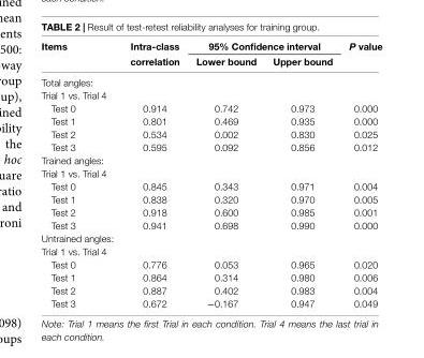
<table><thead><tr><td rowspan="2">Items</td><td rowspan="2">Intra-class correlation</td><td colspan="2">95% Confidence interval</td><td rowspan="2">P value</td></tr><tr><td>Lower bound</td><td>Upper bound</td></tr></thead><tbody><tr><td colspan="5">Total angles:</td></tr><tr><td colspan="5">Trial 1 vs. Trial 4</td></tr><tr><td>Test 0</td><td>0.914</td><td>0.742</td><td>0.973</td><td>0.000</td></tr><tr><td>Test 1</td><td>0.801</td><td>0.469</td><td>0.935</td><td>0.000</td></tr><tr><td>Test 2</td><td>0.534</td><td>0.002</td><td>0.830</td><td>0.025</td></tr><tr><td>Test 3</td><td>0.595</td><td>0.092</td><td>0.856</td><td>0.012</td></tr><tr><td colspan="5">Trained angles:</td></tr><tr><td colspan="5">Trial 1 vs. Trial 4</td></tr><tr><td>Test 0</td><td>0.845</td><td>0.343</td><td>0.971</td><td>0.004</td></tr><tr><td>Test 1</td><td>0.838</td><td>0.320</td><td>0.970</td><td>0.005</td></tr><tr><td>Test 2</td><td>0.918</td><td>0.600</td><td>0.985</td><td>0.001</td></tr><tr><td>Test 3</td><td>0.941</td><td>0.698</td><td>0.990</td><td>0.000</td></tr><tr><td colspan="5">Untrained angles:</td></tr><tr><td colspan="5">Trial 1 vs. Trial 4</td></tr><tr><td>Test 0</td><td>0.776</td><td>0.053</td><td>0.965</td><td>0.020</td></tr><tr><td>Test 1</td><td>0.864</td><td>0.314</td><td>0.980</td><td>0.006</td></tr><tr><td>Test 2</td><td>0.887</td><td>0.402</td><td>0.983</td><td>0.004</td></tr><tr><td>Test 3</td><td>0.672</td><td>−0.167</td><td>0.947</td><td>0.049</td></tr></tbody></table>